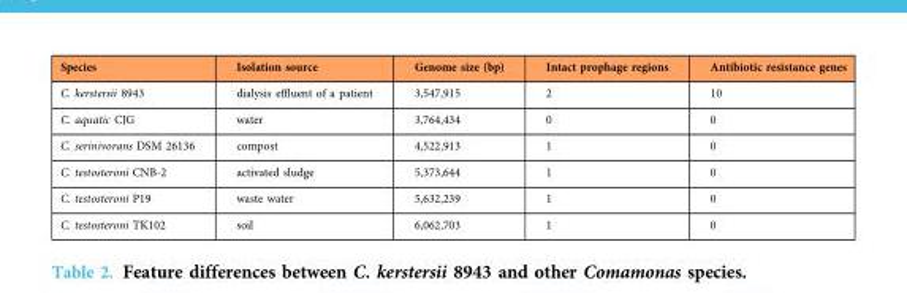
<table><thead><tr><td>Species</td><td>Isolation source</td><td>Genome size (bp)</td><td>Intact prophage regions</td><td>Antibiotic resistance genes</td></tr></thead><tbody><tr><td>C. kerstersii 8943</td><td>dialysis effluent of a patient</td><td>3,547,915</td><td>2</td><td>10</td></tr><tr><td>C. aquatic CJG</td><td>water</td><td>3,764,434</td><td>0</td><td>0</td></tr><tr><td>C. serinivorans DSM 26136</td><td>compost</td><td>4,522,913</td><td>1</td><td>0</td></tr><tr><td>C. testosteroni CNB-2</td><td>activated sludge</td><td>5,373,644</td><td>1</td><td>0</td></tr><tr><td>C. testosteroni P19</td><td>waste water</td><td>5,632,239</td><td>1</td><td>0</td></tr><tr><td>C. testosteroni TK102</td><td>soil</td><td>6,062,703</td><td>1</td><td>0</td></tr></tbody></table>